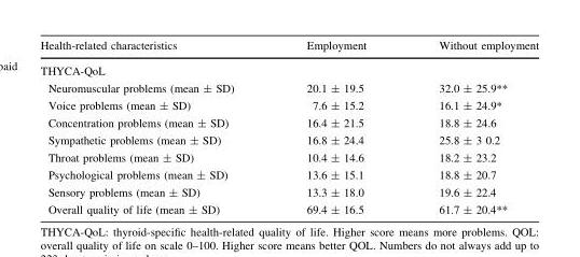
<table><thead><tr><td>Health-related characteristics</td><td>Employment</td><td>Without employment</td></tr></thead><tbody><tr><td colspan="3">THYCA-QoL</td></tr><tr><td>Neuromuscular problems (mean ± SD)</td><td>20.1 ± 19.5</td><td>32.0 ± 25.9**</td></tr><tr><td>Voice problems (mean ± SD)</td><td>7.6 ± 15.2</td><td>16.1 ± 24.9*</td></tr><tr><td>Concentration problems (mean ± SD)</td><td>16.4 ± 21.5</td><td>18.8 ± 24.6</td></tr><tr><td>Sympathetic problems (mean ± SD)</td><td>16.8 ± 24.4</td><td>25.8 ± 3 0.2</td></tr><tr><td>Throat problems (mean ± SD)</td><td>10.4 ± 14.6</td><td>18.2 ± 23.2</td></tr><tr><td>Psychological problems (mean ± SD)</td><td>13.6 ± 15.1</td><td>18.8 ± 20.7</td></tr><tr><td>Sensory problems (mean ± SD)</td><td>13.3 ± 18.0</td><td>19.6 ± 22.4</td></tr><tr><td>Overall quality of life (mean ± SD)</td><td>69.4 ± 16.5</td><td>61.7 ± 20.4**</td></tr></tbody></table>